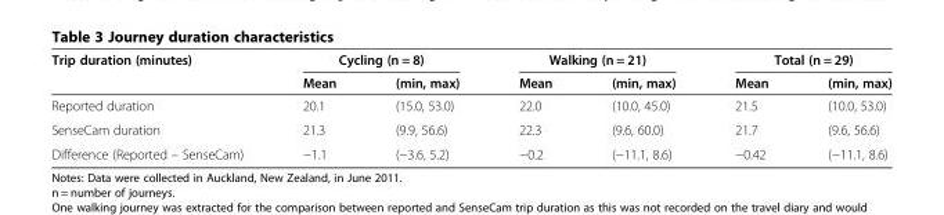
<table><thead><tr><td rowspan="2">Trip duration (minutes)</td><td colspan="2">Cycling (n = 8)</td><td colspan="2">Walking (n = 21)</td><td colspan="2">Total (n = 29)</td></tr><tr><td>Mean</td><td>(min, max)</td><td>Mean</td><td>(min, max)</td><td>Mean</td><td>(min, max)</td></tr></thead><tbody><tr><td>Reported duration</td><td>20.1</td><td>(15.0, 53.0)</td><td>22.0</td><td>(10.0, 45.0)</td><td>21.5</td><td>(10.0, 53.0)</td></tr><tr><td>SenseCam duration</td><td>21.3</td><td>(9.9, 56.6)</td><td>22.3</td><td>(9.6, 60.0)</td><td>21.7</td><td>(9.6, 56.6)</td></tr><tr><td>Difference (Reported – SenseCam)</td><td>−1.1</td><td>(−3.6, 5.2)</td><td>−0.2</td><td>(−11.1, 8.6)</td><td>−0.42</td><td>(−11.1, 8.6)</td></tr></tbody></table>